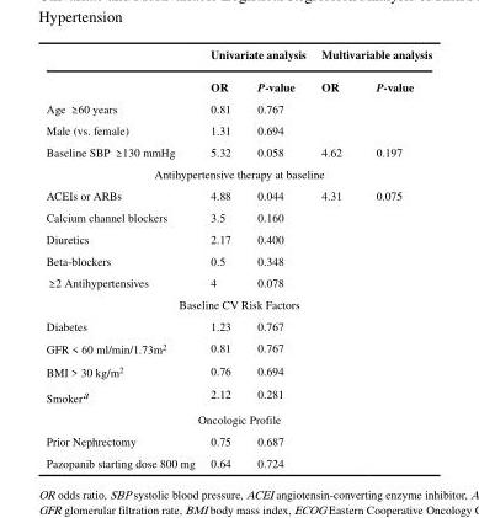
<table><thead><tr><td rowspan="2"></td><td colspan="2">Univariate analysis</td><td colspan="2">Multivariable analysis</td></tr><tr><td>OR</td><td>P-value</td><td>OR</td><td>P-value</td></tr></thead><tbody><tr><td>Age ≥ 60 years</td><td>0.81</td><td>0.767</td><td></td><td></td></tr><tr><td>Male (vs. female)</td><td>1.31</td><td>0.694</td><td></td><td></td></tr><tr><td>Baseline SBP ≥ 130 mmHg</td><td>5.32</td><td>0.058</td><td>4.62</td><td>0.197</td></tr><tr><td colspan="5">Antihypertensive therapy at baseline</td></tr><tr><td>ACEIs or ARBs</td><td>4.88</td><td>0.044</td><td>4.31</td><td>0.075</td></tr><tr><td>Calcium channel blockers</td><td>3.5</td><td>0.160</td><td></td><td></td></tr><tr><td>Diuretics</td><td>2.17</td><td>0.400</td><td></td><td></td></tr><tr><td>Beta-blockers</td><td>0.5</td><td>0.348</td><td></td><td></td></tr><tr><td>≥ 2 Antihypertensives</td><td>4</td><td>0.078</td><td></td><td></td></tr><tr><td colspan="5">Baseline CV Risk Factors</td></tr><tr><td>Diabetes</td><td>1.23</td><td>0.767</td><td></td><td></td></tr><tr><td>GFR &lt; 60 ml/min/1.73m<sup>2</sup></td><td>0.81</td><td>0.767</td><td></td><td></td></tr><tr><td>BMI &gt; 30 kg/m<sup>2</sup></td><td>0.76</td><td>0.694</td><td></td><td></td></tr><tr><td>Smoker<sup>a</sup></td><td>2.12</td><td>0.281</td><td></td><td></td></tr><tr><td colspan="5">Oncologic Profile</td></tr><tr><td>Prior Nephrectomy</td><td>0.75</td><td>0.687</td><td></td><td></td></tr><tr><td>Pazopanib starting dose 800 mg</td><td>0.64</td><td>0.724</td><td></td><td></td></tr></tbody></table>